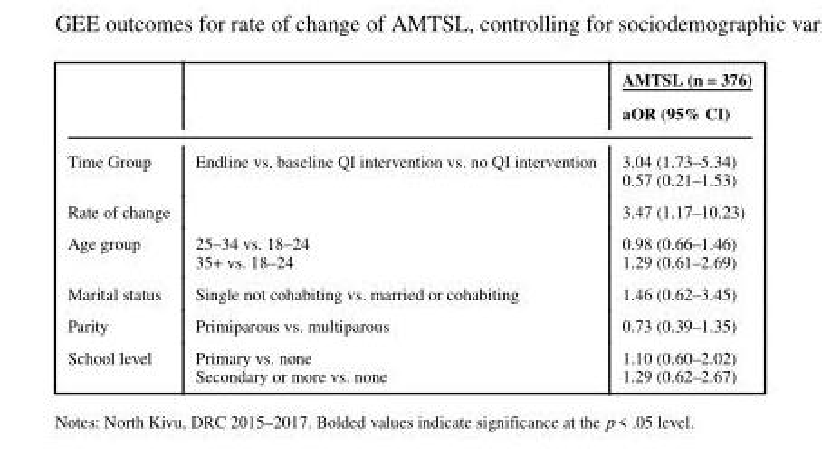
<table><thead><tr><td rowspan="2"></td><td rowspan="2"></td><td rowspan="2">AMTSL (n = 376) aOR (95% CI)</td></tr><tr></tr></thead><tbody><tr><td>Time Group</td><td>Endline vs. baseline QI intervention vs. no QI intervention</td><td>3.04 (1.73–5.34) 0.57 (0.21–1.53)</td></tr><tr><td>Rate of change</td><td></td><td>3.47 (1.17–10.23)</td></tr><tr><td>Age group</td><td>25–34 vs. 18–24 35+ vs. 18–24</td><td>0.98 (0.66–1.46) 1.29 (0.61–2.69)</td></tr><tr><td>Marital status</td><td>Single not cohabiting vs. married or cohabiting</td><td>1.46 (0.62–3.45)</td></tr><tr><td>Parity</td><td>Primiparous vs. multiparous</td><td>0.73 (0.39–1.35)</td></tr><tr><td>School level</td><td>Primary vs. none Secondary or more vs. none</td><td>1.10 (0.60–2.02) 1.29 (0.62–2.67)</td></tr></tbody></table>